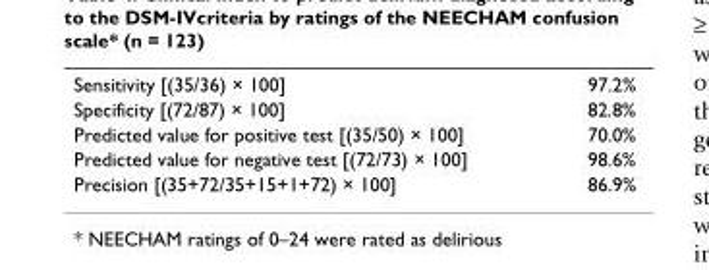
<table><tbody><tr><td>Sensitivity [(35/36) × 100]</td><td>97.2%</td></tr><tr><td>Specificity [(72/87) × 100]</td><td>82.8%</td></tr><tr><td>Predicted value for positive test [(35/50) × 100]</td><td>70.0%</td></tr><tr><td>Predicted value for negative test [(72/73) × 100]</td><td>98.6%</td></tr><tr><td>Precision [(35+72/35+15+1+72) × 100]</td><td>86.9%</td></tr></tbody></table>